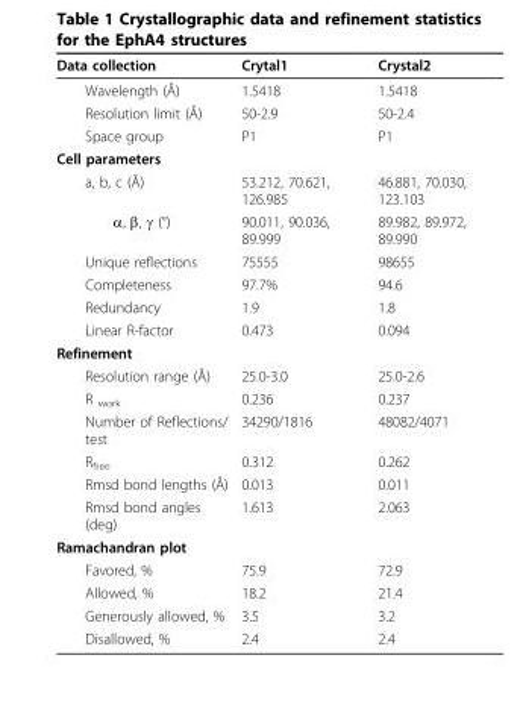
<table><thead><tr><td>Data collection</td><td>Crytal1</td><td>Crystal2</td></tr></thead><tbody><tr><td>Wavelength (Å)</td><td>1.5418</td><td>1.5418</td></tr><tr><td>Resolution limit (Å)</td><td>50-2.9</td><td>50-2.4</td></tr><tr><td>Space group</td><td>P1</td><td>P1</td></tr><tr><td colspan="3">Cell parameters</td></tr><tr><td>a, b, c (Å)</td><td>53.212, 70.621, 126.985</td><td>46.881, 70.030, 123.103</td></tr><tr><td>α, β, γ (°)</td><td>90.011, 90.036, 89.999</td><td>89.982, 89.972, 89.990</td></tr><tr><td>Unique reflections</td><td>75555</td><td>98655</td></tr><tr><td>Completeness</td><td>97.7%</td><td>94.6</td></tr><tr><td>Redundancy</td><td>1.9</td><td>1.8</td></tr><tr><td>Linear R-factor</td><td>0.473</td><td>0.094</td></tr><tr><td colspan="3">Refinement</td></tr><tr><td>Resolution range (Å)</td><td>25.0-3.0</td><td>25.0-2.6</td></tr><tr><td>R <sub>work</sub></td><td>0.236</td><td>0.237</td></tr><tr><td>Number of Reflections/ test</td><td>34290/1816</td><td>48082/4071</td></tr><tr><td>R<sub>free</sub></td><td>0.312</td><td>0.262</td></tr><tr><td>Rmsd bond lengths (Å)</td><td>0.013</td><td>0.011</td></tr><tr><td>Rmsd bond angles (deg)</td><td>1.613</td><td>2.063</td></tr><tr><td colspan="3">Ramachandran plot</td></tr><tr><td>Favored, %</td><td>75.9</td><td>72.9</td></tr><tr><td>Allowed, %</td><td>18.2</td><td>21.4</td></tr><tr><td>Generously allowed, %</td><td>3.5</td><td>3.2</td></tr><tr><td>Disallowed, %</td><td>2.4</td><td>2.4</td></tr></tbody></table>